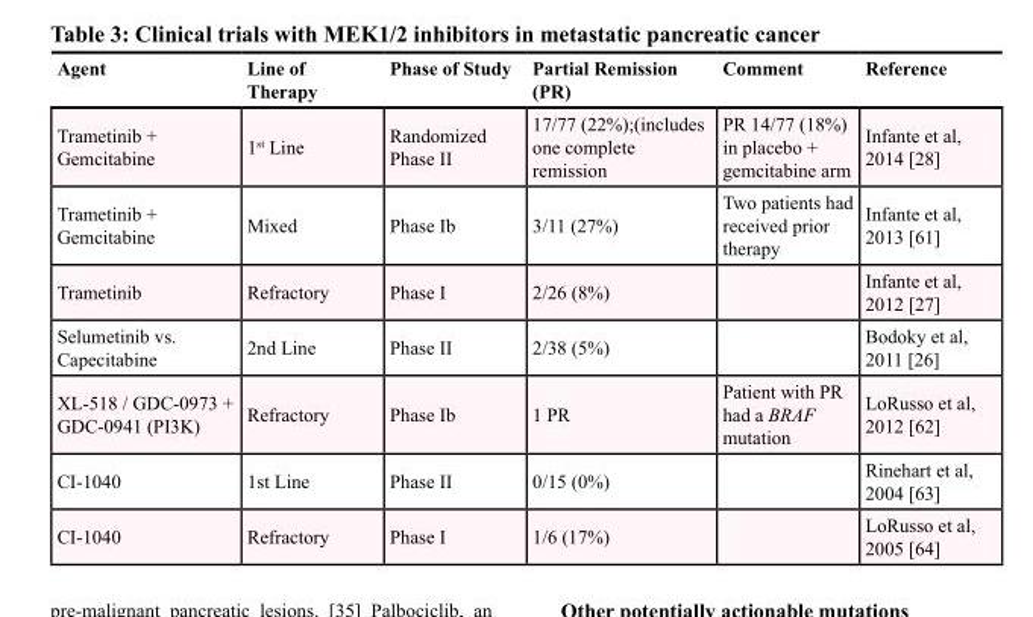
<table><thead><tr><td>Agent</td><td>Line of Therapy</td><td>Phase of Study</td><td>Partial Remission (PR)</td><td>Comment</td><td>Reference</td></tr></thead><tbody><tr><td>Trametinib + Gemcitabine</td><td>1<sup>st</sup> Line</td><td>Randomized Phase II</td><td>17/77 (22%);(includes one complete remission</td><td>PR 14/77 (18%) in placebo + gemcitabine arm</td><td>Infante et al, 2014 [28]</td></tr><tr><td>Trametinib + Gemcitabine</td><td>Mixed</td><td>Phase Ib</td><td>3/11 (27%)</td><td>Two patients had received prior therapy</td><td>Infante et al, 2013 [61]</td></tr><tr><td>Trametinib</td><td>Refractory</td><td>Phase I</td><td>2/26 (8%)</td><td></td><td>Infante et al, 2012 [27]</td></tr><tr><td>Selumetinib vs. Capecitabine</td><td>2nd Line</td><td>Phase II</td><td>2/38 (5%)</td><td></td><td>Bodoky et al, 2011 [26]</td></tr><tr><td>XL-518 / GDC-0973 + GDC-0941 (PI3K)</td><td>Refractory</td><td>Phase Ib</td><td>1 PR</td><td>Patient with PR had a BRAF mutation</td><td>LoRusso et al, 2012 [62]</td></tr><tr><td>CI-1040</td><td>1st Line</td><td>Phase II</td><td>0/15 (0%)</td><td></td><td>Rinehart et al, 2004 [63]</td></tr><tr><td>CI-1040</td><td>Refractory</td><td>Phase I</td><td>1/6 (17%)</td><td></td><td>LoRusso et al, 2005 [64]</td></tr></tbody></table>